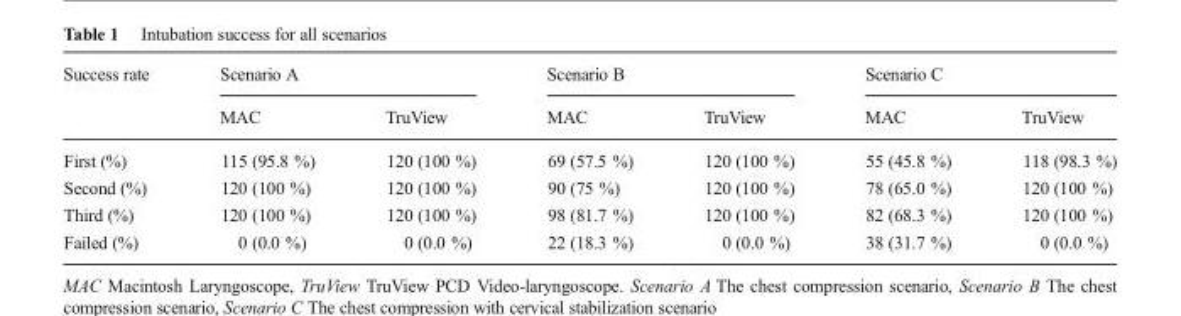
<table><thead><tr><td rowspan="2">Success rate</td><td colspan="2">Scenario A</td><td colspan="2">Scenario B</td><td colspan="2">Scenario C</td></tr><tr><td>MAC</td><td>TruView</td><td>MAC</td><td>TruView</td><td>MAC</td><td>TruView</td></tr></thead><tbody><tr><td>First (%)</td><td>115 (95.8 %)</td><td>120 (100 %)</td><td>69 (57.5 %)</td><td>120 (100 %)</td><td>55 (45.8 %)</td><td>118 (98.3 %)</td></tr><tr><td>Second (%)</td><td>120 (100 %)</td><td>120 (100 %)</td><td>90 (75 %)</td><td>120 (100 %)</td><td>78 (65.0 %)</td><td>120 (100 %)</td></tr><tr><td>Third (%)</td><td>120 (100 %)</td><td>120 (100 %)</td><td>98 (81.7 %)</td><td>120 (100 %)</td><td>82 (68.3 %)</td><td>120 (100 %)</td></tr><tr><td>Failed (%)</td><td>0 (0.0 %)</td><td>0 (0.0 %)</td><td>22 (18.3 %)</td><td>0 (0.0 %)</td><td>38 (31.7 %)</td><td>0 (0.0 %)</td></tr></tbody></table>